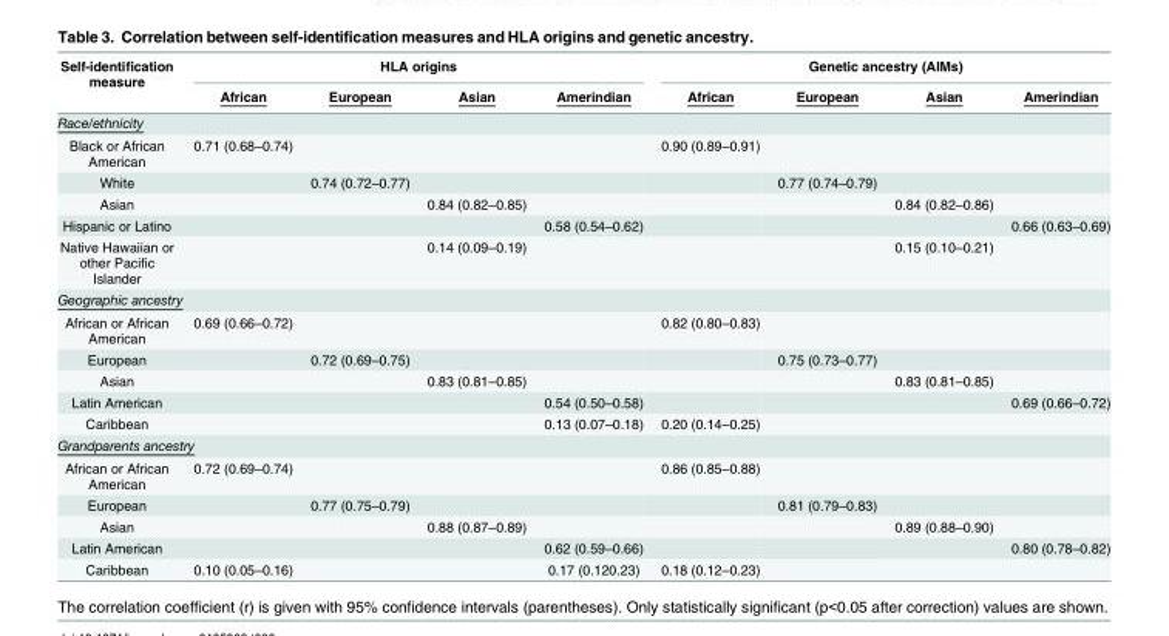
<table><thead><tr><td rowspan="2">Self-identification measure</td><td colspan="4">HLA origins</td><td colspan="4">Genetic ancestry (AIMs)</td></tr><tr><td>African</td><td>European</td><td>Asian</td><td>Amerindian</td><td>African</td><td>European</td><td>Asian</td><td>Amerindian</td></tr></thead><tbody><tr><td colspan="9">Race/ethnicity</td></tr><tr><td>Black or African American</td><td>0.71 (0.68–0.74)</td><td></td><td></td><td></td><td>0.90 (0.89–0.91)</td><td></td><td></td><td></td></tr><tr><td>White</td><td></td><td>0.74 (0.72–0.77)</td><td></td><td></td><td></td><td>0.77 (0.74–0.79)</td><td></td><td></td></tr><tr><td>Asian</td><td></td><td></td><td>0.84 (0.82–0.85)</td><td></td><td></td><td></td><td>0.84 (0.82–0.86)</td><td></td></tr><tr><td>Hispanic or Latino</td><td></td><td></td><td></td><td>0.58 (0.54–0.62)</td><td></td><td></td><td></td><td>0.66 (0.63–0.69)</td></tr><tr><td>Native Hawaiian or other Pacific Islander</td><td></td><td></td><td>0.14 (0.09–0.19)</td><td></td><td></td><td></td><td>0.15 (0.10–0.21)</td><td></td></tr><tr><td colspan="9">Geographic ancestry</td></tr><tr><td>African or African American</td><td>0.69 (0.66–0.72)</td><td></td><td></td><td></td><td>0.82 (0.80–0.83)</td><td></td><td></td><td></td></tr><tr><td>European</td><td></td><td>0.72 (0.69–0.75)</td><td></td><td></td><td></td><td>0.75 (0.73–0.77)</td><td></td><td></td></tr><tr><td>Asian</td><td></td><td></td><td>0.83 (0.81–0.85)</td><td></td><td></td><td></td><td>0.83 (0.81–0.85)</td><td></td></tr><tr><td>Latin American</td><td></td><td></td><td></td><td>0.54 (0.50–0.58)</td><td></td><td></td><td></td><td>0.69 (0.66–0.72)</td></tr><tr><td>Caribbean</td><td></td><td></td><td></td><td>0.13 (0.07–0.18)</td><td>0.20 (0.14–0.25)</td><td></td><td></td><td></td></tr><tr><td colspan="9">Grandparents ancestry</td></tr><tr><td>African or African American</td><td>0.72 (0.69–0.74)</td><td></td><td></td><td></td><td>0.86 (0.85–0.88)</td><td></td><td></td><td></td></tr><tr><td>European</td><td></td><td>0.77 (0.75–0.79)</td><td></td><td></td><td></td><td>0.81 (0.79–0.83)</td><td></td><td></td></tr><tr><td>Asian</td><td></td><td></td><td>0.88 (0.87–0.89)</td><td></td><td></td><td></td><td>0.89 (0.88–0.90)</td><td></td></tr><tr><td>Latin American</td><td></td><td></td><td></td><td>0.62 (0.59–0.66)</td><td></td><td></td><td></td><td>0.80 (0.78–0.82)</td></tr><tr><td>Caribbean</td><td>0.10 (0.05–0.16)</td><td></td><td></td><td>0.17 (0.120.23)</td><td>0.18 (0.12–0.23)</td><td></td><td></td><td></td></tr></tbody></table>